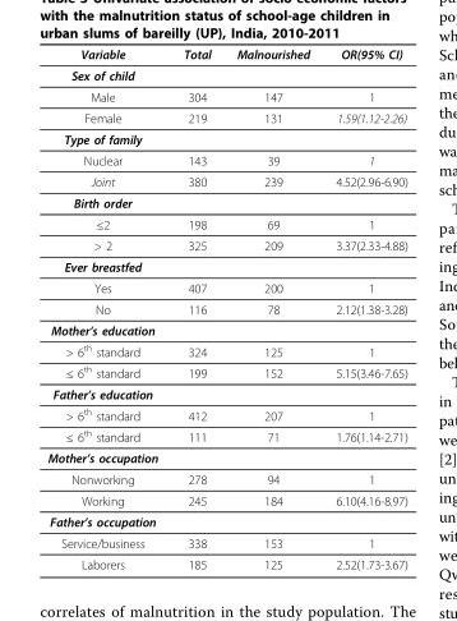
<table><thead><tr><td>Variable</td><td>Total</td><td>Malnourished</td><td>OR(95% CI)</td></tr></thead><tbody><tr><td colspan="4">Sex of child</td></tr><tr><td>Male</td><td>304</td><td>147</td><td>1</td></tr><tr><td>Female</td><td>219</td><td>131</td><td>1.59(1.12-2.26)</td></tr><tr><td colspan="4">Type of family</td></tr><tr><td>Nuclear</td><td>143</td><td>39</td><td>1</td></tr><tr><td>Joint</td><td>380</td><td>239</td><td>4.52(2.96-6.90)</td></tr><tr><td colspan="4">Birth order</td></tr><tr><td>≤2</td><td>198</td><td>69</td><td>1</td></tr><tr><td>&gt; 2</td><td>325</td><td>209</td><td>3.37(2.33-4.88)</td></tr><tr><td colspan="4">Ever breastfed</td></tr><tr><td>Yes</td><td>407</td><td>200</td><td>1</td></tr><tr><td>No</td><td>116</td><td>78</td><td>2.12(1.38-3.28)</td></tr><tr><td colspan="4">Mother’s education</td></tr><tr><td>&gt; 6<sup>th</sup> standard</td><td>324</td><td>125</td><td>1</td></tr><tr><td>≤ 6<sup>th</sup> standard</td><td>199</td><td>152</td><td>5.15(3.46-7.65)</td></tr><tr><td colspan="4">Father’s education</td></tr><tr><td>&gt; 6<sup>th</sup> standard</td><td>412</td><td>207</td><td>1</td></tr><tr><td>≤ 6<sup>th</sup> standard</td><td>111</td><td>71</td><td>1.76(1.14-2.71)</td></tr><tr><td colspan="4">Mother’s occupation</td></tr><tr><td>Nonworking</td><td>278</td><td>94</td><td>1</td></tr><tr><td>Working</td><td>245</td><td>184</td><td>6.10(4.16-8.97)</td></tr><tr><td colspan="4">Father’s occupation</td></tr><tr><td>Service/business</td><td>338</td><td>153</td><td>1</td></tr><tr><td>Laborers</td><td>185</td><td>125</td><td>2.52(1.73-3.67)</td></tr></tbody></table>